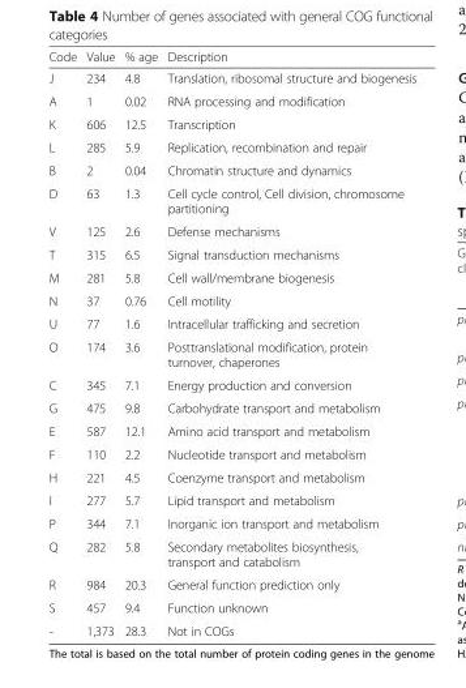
<table><thead><tr><td>Code</td><td>Value</td><td>% age</td><td>Description</td></tr></thead><tbody><tr><td>J</td><td>234</td><td>4.8</td><td>Translation, ribosomal structure and biogenesis</td></tr><tr><td>A</td><td>1</td><td>0.02</td><td>RNA processing and modification</td></tr><tr><td>K</td><td>606</td><td>12.5</td><td>Transcription</td></tr><tr><td>L</td><td>285</td><td>5.9</td><td>Replication, recombination and repair</td></tr><tr><td>B</td><td>2</td><td>0.04</td><td>Chromatin structure and dynamics</td></tr><tr><td>D</td><td>63</td><td>1.3</td><td>Cell cycle control, Cell division, chromosome partitioning</td></tr><tr><td>V</td><td>125</td><td>2.6</td><td>Defense mechanisms</td></tr><tr><td>T</td><td>315</td><td>6.5</td><td>Signal transduction mechanisms</td></tr><tr><td>M</td><td>281</td><td>5.8</td><td>Cell wall/membrane biogenesis</td></tr><tr><td>N</td><td>37</td><td>0.76</td><td>Cell motility</td></tr><tr><td>U</td><td>77</td><td>1.6</td><td>Intracellular trafficking and secretion</td></tr><tr><td>O</td><td>174</td><td>3.6</td><td>Posttranslational modification, protein turnover, chaperones</td></tr><tr><td>C</td><td>345</td><td>7.1</td><td>Energy production and conversion</td></tr><tr><td>G</td><td>475</td><td>9.8</td><td>Carbohydrate transport and metabolism</td></tr><tr><td>E</td><td>587</td><td>12.1</td><td>Amino acid transport and metabolism</td></tr><tr><td>F</td><td>110</td><td>2.2</td><td>Nucleotide transport and metabolism</td></tr><tr><td>H</td><td>221</td><td>4.5</td><td>Coenzyme transport and metabolism</td></tr><tr><td>I</td><td>277</td><td>5.7</td><td>Lipid transport and metabolism</td></tr><tr><td>P</td><td>344</td><td>7.1</td><td>Inorganic ion transport and metabolism</td></tr><tr><td>Q</td><td>282</td><td>5.8</td><td>Secondary metabolites biosynthesis, transport and catabolism</td></tr><tr><td>R</td><td>984</td><td>20.3</td><td>General function prediction only</td></tr><tr><td>S</td><td>457</td><td>9.4</td><td>Function unknown</td></tr><tr><td>-</td><td>1,373</td><td>28.3</td><td>Not in COGs</td></tr></tbody></table>